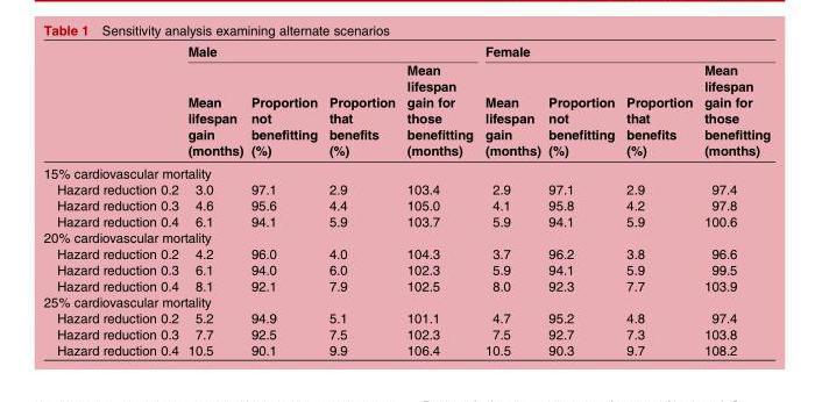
<table><thead><tr><td rowspan="2"></td><td colspan="4">Male</td><td colspan="4">Female</td></tr><tr><td>Mean lifespan gain (months)</td><td>Proportion not benefitting (%)</td><td>Proportion that benefits (%)</td><td>Mean lifespan gain for those benefitting (months)</td><td>Mean lifespan gain (months)</td><td>Proportion not benefitting (%)</td><td>Proportion that benefits (%)</td><td>Mean lifespan gain for those benefitting (months)</td></tr></thead><tbody><tr><td colspan="9">15% cardiovascular mortality</td></tr><tr><td>Hazard reduction 0.2</td><td>3.0</td><td>97.1</td><td>2.9</td><td>103.4</td><td>2.9</td><td>97.1</td><td>2.9</td><td>97.4</td></tr><tr><td>Hazard reduction 0.3</td><td>4.6</td><td>95.6</td><td>4.4</td><td>105.0</td><td>4.1</td><td>95.8</td><td>4.2</td><td>97.8</td></tr><tr><td>Hazard reduction 0.4</td><td>6.1</td><td>94.1</td><td>5.9</td><td>103.7</td><td>5.9</td><td>94.1</td><td>5.9</td><td>100.6</td></tr><tr><td colspan="9">20% cardiovascular mortality</td></tr><tr><td>Hazard reduction 0.2</td><td>4.2</td><td>96.0</td><td>4.0</td><td>104.3</td><td>3.7</td><td>96.2</td><td>3.8</td><td>96.6</td></tr><tr><td>Hazard reduction 0.3</td><td>6.1</td><td>94.0</td><td>6.0</td><td>102.3</td><td>5.9</td><td>94.1</td><td>5.9</td><td>99.5</td></tr><tr><td>Hazard reduction 0.4</td><td>8.1</td><td>92.1</td><td>7.9</td><td>102.5</td><td>8.0</td><td>92.3</td><td>7.7</td><td>103.9</td></tr><tr><td colspan="9">25% cardiovascular mortality</td></tr><tr><td>Hazard reduction 0.2</td><td>5.2</td><td>94.9</td><td>5.1</td><td>101.1</td><td>4.7</td><td>95.2</td><td>4.8</td><td>97.4</td></tr><tr><td>Hazard reduction 0.3</td><td>7.7</td><td>92.5</td><td>7.5</td><td>102.3</td><td>7.5</td><td>92.7</td><td>7.3</td><td>103.8</td></tr><tr><td>Hazard reduction 0.4</td><td>10.5</td><td>90.1</td><td>9.9</td><td>106.4</td><td>10.5</td><td>90.3</td><td>9.7</td><td>108.2</td></tr></tbody></table>